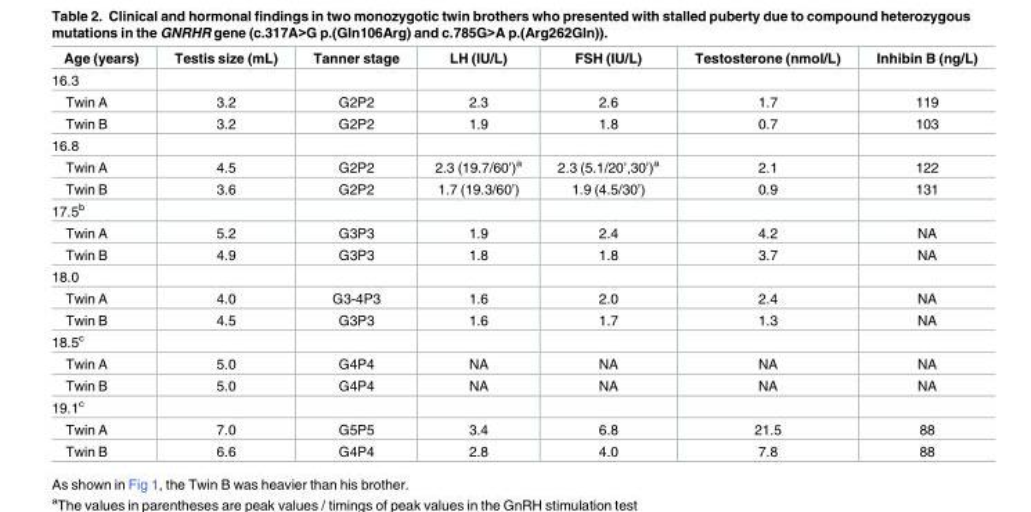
<table><thead><tr><td>Age (years)</td><td>Testis size (mL)</td><td>Tanner stage</td><td>LH (IU/L)</td><td>FSH (IU/L)</td><td>Testosterone (nmol/L)</td><td>Inhibin B (ng/L)</td></tr></thead><tbody><tr><td colspan="7">16.3</td></tr><tr><td>Twin A</td><td>3.2</td><td>G2P2</td><td>2.3</td><td>2.6</td><td>1.7</td><td>119</td></tr><tr><td>Twin B</td><td>3.2</td><td>G2P2</td><td>1.9</td><td>1.8</td><td>0.7</td><td>103</td></tr><tr><td colspan="7">16.8</td></tr><tr><td>Twin A</td><td>4.5</td><td>G2P2</td><td>2.3 (19.7/60’)<sup>a</sup></td><td>2.3 (5.1/20’,30’)<sup>a</sup></td><td>2.1</td><td>122</td></tr><tr><td>Twin B</td><td>3.6</td><td>G2P2</td><td>1.7 (19.3/60’)</td><td>1.9 (4.5/30’)</td><td>0.9</td><td>131</td></tr><tr><td colspan="7">17.5<sup>b</sup></td></tr><tr><td>Twin A</td><td>5.2</td><td>G3P3</td><td>1.9</td><td>2.4</td><td>4.2</td><td>NA</td></tr><tr><td>Twin B</td><td>4.9</td><td>G3P3</td><td>1.8</td><td>1.8</td><td>3.7</td><td>NA</td></tr><tr><td colspan="7">18.0</td></tr><tr><td>Twin A</td><td>4.0</td><td>G3-4P3</td><td>1.6</td><td>2.0</td><td>2.4</td><td>NA</td></tr><tr><td>Twin B</td><td>4.5</td><td>G3P3</td><td>1.6</td><td>1.7</td><td>1.3</td><td>NA</td></tr><tr><td colspan="7">18.5<sup>c</sup></td></tr><tr><td>Twin A</td><td>5.0</td><td>G4P4</td><td>NA</td><td>NA</td><td>NA</td><td>NA</td></tr><tr><td>Twin B</td><td>5.0</td><td>G4P4</td><td>NA</td><td>NA</td><td>NA</td><td>NA</td></tr><tr><td colspan="7">19.1<sup>c</sup></td></tr><tr><td>Twin A</td><td>7.0</td><td>G5P5</td><td>3.4</td><td>6.8</td><td>21.5</td><td>88</td></tr><tr><td>Twin B</td><td>6.6</td><td>G4P4</td><td>2.8</td><td>4.0</td><td>7.8</td><td>88</td></tr></tbody></table>